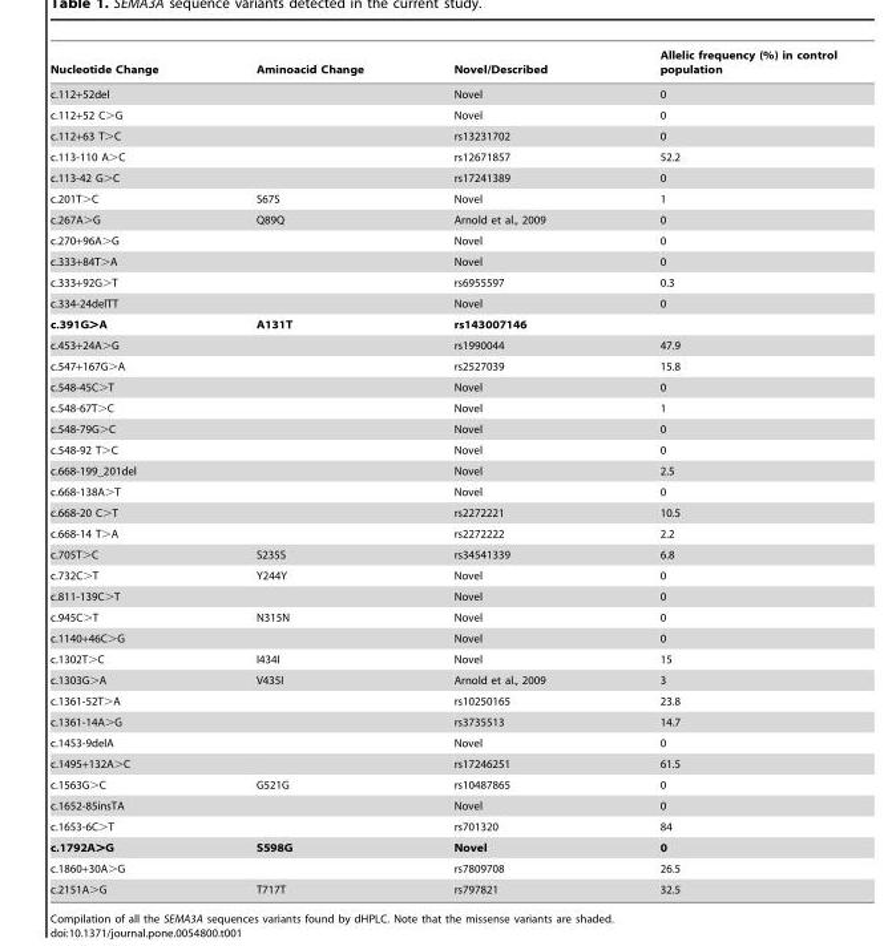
<table><thead><tr><td>Nucleotide Change</td><td>Aminoacid Change</td><td>Novel/Described</td><td>Allelic frequency (%) in control population</td></tr></thead><tbody><tr><td>c.112+52del</td><td></td><td>Novel</td><td>0</td></tr><tr><td>c.112+52 C&gt;G</td><td></td><td>Novel</td><td>0</td></tr><tr><td>c.112+63 T&gt;C</td><td></td><td>rs13231702</td><td>0</td></tr><tr><td>c.113-110 A&gt;C</td><td></td><td>rs12671857</td><td>52.2</td></tr><tr><td>c.113-42 G&gt;C</td><td></td><td>rs17241389</td><td>0</td></tr><tr><td>c.201T&gt;C</td><td>S67S</td><td>Novel</td><td>1</td></tr><tr><td>c.267A&gt;G</td><td>Q89Q</td><td>Arnold et al., 2009</td><td>0</td></tr><tr><td>c.270+96A&gt;G</td><td></td><td>Novel</td><td>0</td></tr><tr><td>c.333+84T&gt;A</td><td></td><td>Novel</td><td>0</td></tr><tr><td>c.333+92G&gt;T</td><td></td><td>rs6955597</td><td>0.3</td></tr><tr><td>c.334-24delTT</td><td></td><td>Novel</td><td>0</td></tr><tr><td>c.391G&gt;A</td><td>A131T</td><td>rs143007146</td><td></td></tr><tr><td>c.453+24A&gt;G</td><td></td><td>rs1990044</td><td>47.9</td></tr><tr><td>c.547+167G&gt;A</td><td></td><td>rs2527039</td><td>15.8</td></tr><tr><td>c.548-45C&gt;T</td><td></td><td>Novel</td><td>0</td></tr><tr><td>c.548-67T&gt;C</td><td></td><td>Novel</td><td>1</td></tr><tr><td>c.548-79G&gt;C</td><td></td><td>Novel</td><td>0</td></tr><tr><td>c.548-92 T&gt;C</td><td></td><td>Novel</td><td>0</td></tr><tr><td>c.668-199_201del</td><td></td><td>Novel</td><td>2.5</td></tr><tr><td>c.668-138A&gt;T</td><td></td><td>Novel</td><td>0</td></tr><tr><td>c.668-20 C&gt;T</td><td></td><td>rs2272221</td><td>10.5</td></tr><tr><td>c.668-14 T&gt;A</td><td></td><td>rs2272222</td><td>2.2</td></tr><tr><td>c.705T&gt;C</td><td>S235S</td><td>rs34541339</td><td>6.8</td></tr><tr><td>c.732C&gt;T</td><td>Y244Y</td><td>Novel</td><td>0</td></tr><tr><td>c.811-139C&gt;T</td><td></td><td>Novel</td><td>0</td></tr><tr><td>c.945C&gt;T</td><td>N315N</td><td>Novel</td><td>0</td></tr><tr><td>c.1140+46C&gt;G</td><td></td><td>Novel</td><td>0</td></tr><tr><td>c.1302T&gt;C</td><td>I434I</td><td>Novel</td><td>15</td></tr><tr><td>c.1303G&gt;A</td><td>V435I</td><td>Arnold et al., 2009</td><td>3</td></tr><tr><td>c.1361-52T&gt;A</td><td></td><td>rs10250165</td><td>23.8</td></tr><tr><td>c.1361-14A&gt;G</td><td></td><td>rs3735513</td><td>14.7</td></tr><tr><td>c.1453-9delA</td><td></td><td>Novel</td><td>0</td></tr><tr><td>c.1495+132A&gt;C</td><td></td><td>rs17246251</td><td>61.5</td></tr><tr><td>c.1563G&gt;C</td><td>G521G</td><td>rs10487865</td><td>0</td></tr><tr><td>c.1652-85insTA</td><td></td><td>Novel</td><td>0</td></tr><tr><td>c.1653-6C&gt;T</td><td></td><td>rs701320</td><td>84</td></tr><tr><td>c.1792A&gt;G</td><td>S598G</td><td>Novel</td><td>0</td></tr><tr><td>c.1860+30A&gt;G</td><td></td><td>rs7809708</td><td>26.5</td></tr><tr><td>c.2151A&gt;G</td><td>T717T</td><td>rs797821</td><td>32.5</td></tr></tbody></table>